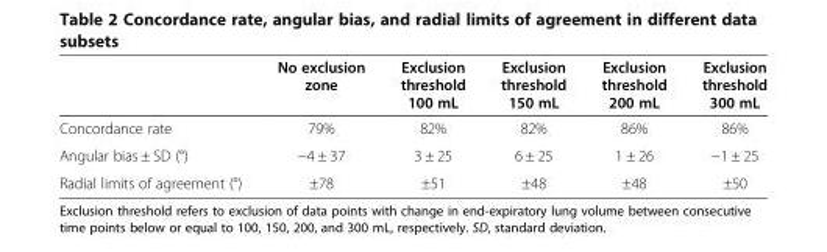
<table><thead><tr><td></td><td>No exclusion zone</td><td>Exclusion threshold 100 mL</td><td>Exclusion threshold 150 mL</td><td>Exclusion threshold 200 mL</td><td>Exclusion threshold 300 mL</td></tr></thead><tbody><tr><td>Concordance rate</td><td>79%</td><td>82%</td><td>82%</td><td>86%</td><td>86%</td></tr><tr><td>Angular bias ± SD (°)</td><td>−4 ± 37</td><td>3 ± 25</td><td>6 ± 25</td><td>1 ± 26</td><td>−1 ± 25</td></tr><tr><td>Radial limits of agreement (°)</td><td>±78</td><td>±51</td><td>±48</td><td>±48</td><td>±50</td></tr></tbody></table>